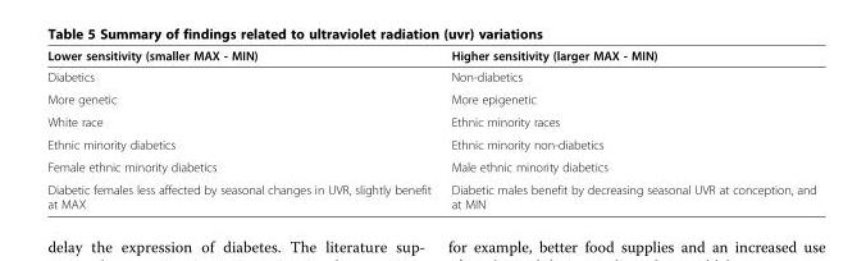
<table><thead><tr><td>Lower sensitivity (smaller MAX - MIN)</td><td>Higher sensitivity (larger MAX - MIN)</td></tr></thead><tbody><tr><td>Diabetics</td><td>Non-diabetics</td></tr><tr><td>More genetic</td><td>More epigenetic</td></tr><tr><td>White race</td><td>Ethnic minority races</td></tr><tr><td>Ethnic minority diabetics</td><td>Ethnic minority non-diabetics</td></tr><tr><td>Female ethnic minority diabetics</td><td>Male ethnic minority diabetics</td></tr><tr><td>Diabetic females less affected by seasonal changes in UVR, slightly benefit at MAX</td><td>Diabetic males benefit by decreasing seasonal UVR at conception, and at MIN</td></tr></tbody></table>